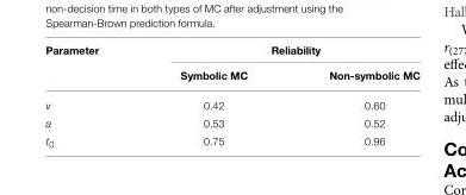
<table><thead><tr><td rowspan="2">Parameter</td><td colspan="2">Reliability</td></tr><tr><td>Symbolic MC</td><td>Non-symbolic MC</td></tr></thead><tbody><tr><td>v</td><td>0.42</td><td>0.60</td></tr><tr><td>a</td><td>0.53</td><td>0.52</td></tr><tr><td>t<sub>0</sub></td><td>0.75</td><td>0.96</td></tr></tbody></table>